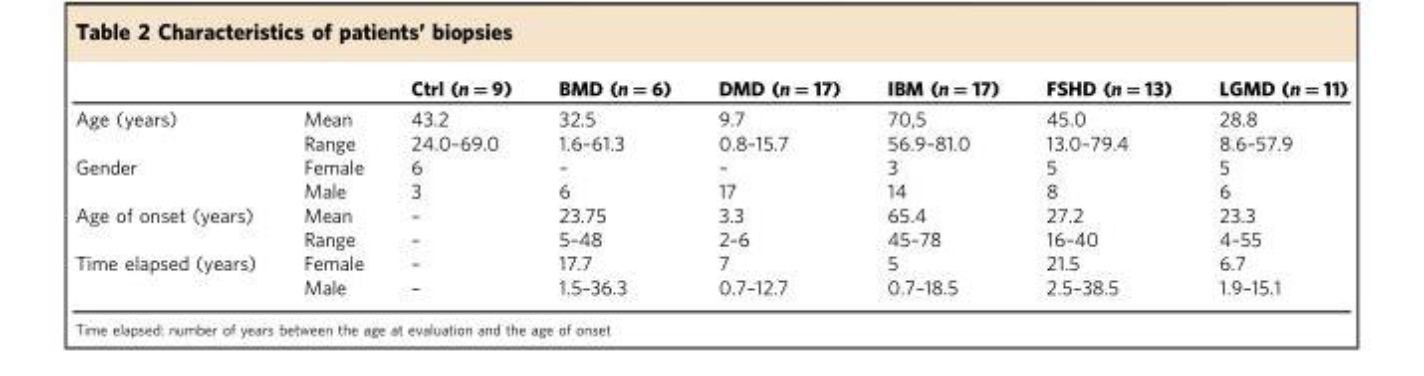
<table><thead><tr><td></td><td></td><td>Ctrl (n = 9)</td><td>BMD (n = 6)</td><td>DMD (n = 17)</td><td>IBM (n = 17)</td><td>FSHD (n = 13)</td><td>LGMD (n = 11)</td></tr></thead><tbody><tr><td rowspan="2">Age (years)</td><td>Mean</td><td>43.2</td><td>32.5</td><td>9.7</td><td>70,5</td><td>45.0</td><td>28.8</td></tr><tr><td>Range</td><td>24.0–69.0</td><td>1.6–61.3</td><td>0.8–15.7</td><td>56.9–81.0</td><td>13.0–79.4</td><td>8.6–57.9</td></tr><tr><td rowspan="2">Gender</td><td>Female</td><td>6</td><td>–</td><td>–</td><td>3</td><td>5</td><td>5</td></tr><tr><td>Male</td><td>3</td><td>6</td><td>17</td><td>14</td><td>8</td><td>6</td></tr><tr><td rowspan="2">Age of onset (years)</td><td>Mean</td><td>–</td><td>23.75</td><td>3.3</td><td>65.4</td><td>27.2</td><td>23.3</td></tr><tr><td>Range</td><td>–</td><td>5–48</td><td>2–6</td><td>45–78</td><td>16–40</td><td>4–55</td></tr><tr><td rowspan="2">Time elapsed (years)</td><td>Female</td><td>–</td><td>17.7</td><td>7</td><td>5</td><td>21.5</td><td>6.7</td></tr><tr><td>Male</td><td>–</td><td>1.5–36.3</td><td>0.7–12.7</td><td>0.7–18.5</td><td>2.5–38.5</td><td>1.9–15.1</td></tr></tbody></table>